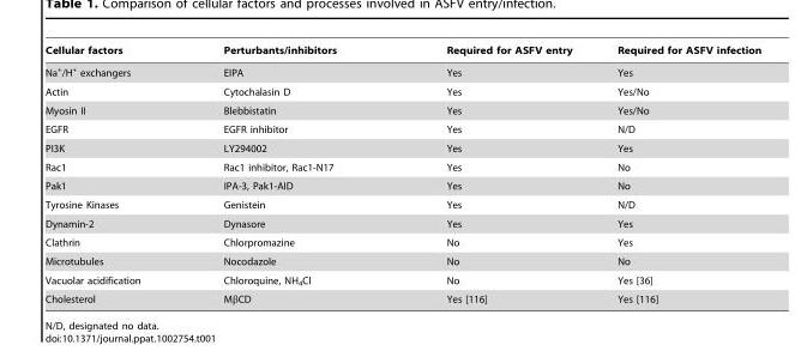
<table><thead><tr><td>Cellular factors</td><td>Perturbants/inhibitors</td><td>Required for ASFV entry</td><td>Required for ASFV infection</td></tr></thead><tbody><tr><td>Na<sup>+</sup>/H<sup>+</sup> exchangers</td><td>EIPA</td><td>Yes</td><td>Yes</td></tr><tr><td>Actin</td><td>Cytochalasin D</td><td>Yes</td><td>Yes/No</td></tr><tr><td>Myosin II</td><td>Blebbistatin</td><td>Yes</td><td>Yes/No</td></tr><tr><td>EGFR</td><td>EGFR inhibitor</td><td>Yes</td><td>N/D</td></tr><tr><td>PI3K</td><td>LY294002</td><td>Yes</td><td>Yes</td></tr><tr><td>Rac1</td><td>Rac1 inhibitor, Rac1-N17</td><td>Yes</td><td>No</td></tr><tr><td>Pak1</td><td>IPA-3, Pak1-AID</td><td>Yes</td><td>No</td></tr><tr><td>Tyrosine Kinases</td><td>Genistein</td><td>Yes</td><td>N/D</td></tr><tr><td>Dynamin-2</td><td>Dynasore</td><td>Yes</td><td>Yes</td></tr><tr><td>Clathrin</td><td>Chlorpromazine</td><td>No</td><td>Yes</td></tr><tr><td>Microtubules</td><td>Nocodazole</td><td>No</td><td>No</td></tr><tr><td>Vacuolar acidification</td><td>Chloroquine, NH<sub>4</sub>Cl</td><td>No</td><td>Yes [36]</td></tr><tr><td>Cholesterol</td><td>MβCD</td><td>Yes [116]</td><td>Yes [116]</td></tr></tbody></table>